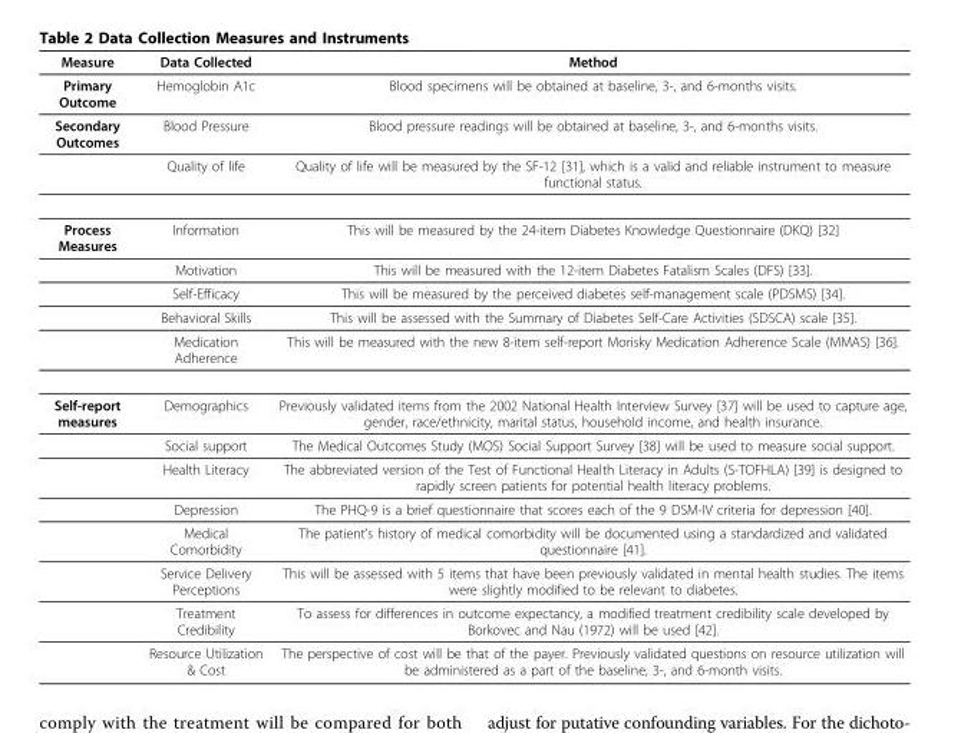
<table><thead><tr><td>Measure</td><td>Data Collected</td><td>Method</td></tr></thead><tbody><tr><td>Primary Outcome</td><td>Hemoglobin A1c</td><td>Blood specimens will be obtained at baseline, 3-, and 6-months visits.</td></tr><tr><td rowspan="2">Secondary Outcomes</td><td>Blood Pressure</td><td>Blood pressure readings will be obtained at baseline, 3-, and 6-months visits.</td></tr><tr><td>Quality of life</td><td>Quality of life will be measured by the SF-12 [31], which is a valid and reliable instrument to measure functional status.</td></tr><tr><td rowspan="5">Process Measures</td><td>Information</td><td>This will be measured by the 24-item Diabetes Knowledge Questionnaire (DKQ) [32]</td></tr><tr><td>Motivation</td><td>This will be measured with the 12-item Diabetes Fatalism Scales (DFS) [33].</td></tr><tr><td>Self-Efficacy</td><td>This will be measured by the perceived diabetes self-management scale (PDSMS) [34].</td></tr><tr><td>Behavioral Skills</td><td>This will be assessed with the Summary of Diabetes Self-Care Activities (SDSCA) scale [35].</td></tr><tr><td>Medication Adherence</td><td>This will be measured with the new 8-item self-report Morisky Medication Adherence Scale (MMAS) [36].</td></tr><tr><td rowspan="8">Self-report measures</td><td>Demographics</td><td>Previously validated items from the 2002 National Health Interview Survey [37] will be used to capture age, gender, race/ethnicity, marital status, household income, and health insurance.</td></tr><tr><td>Social support</td><td>The Medical Outcomes Study (MOS) Social Support Survey [38] will be used to measure social support.</td></tr><tr><td>Health Literacy</td><td>The abbreviated version of the Test of Functional Health Literacy in Adults (S-TOFHLA) [39] is designed to rapidly screen patients for potential health literacy problems.</td></tr><tr><td>Depression</td><td>The PHQ-9 is a brief questionnaire that scores each of the 9 DSM-IV criteria for depression [40].</td></tr><tr><td>Medical Comorbidity</td><td>The patient’s history of medical comorbidity will be documented using a standardized and validated questionnaire [41].</td></tr><tr><td>Service Delivery Perceptions</td><td>This will be assessed with 5 items that have been previously validated in mental health studies. The items were slightly modified to be relevant to diabetes.</td></tr><tr><td>Treatment Credibility</td><td>To assess for differences in outcome expectancy, a modified treatment credibility scale developed by Borkovec and Nau (1972) will be used [42].</td></tr><tr><td>Resource Utilization &amp; Cost</td><td>The perspective of cost will be that of the payer. Previously validated questions on resource utilization will be administered as a part of the baseline, 3-, and 6-month visits.</td></tr></tbody></table>